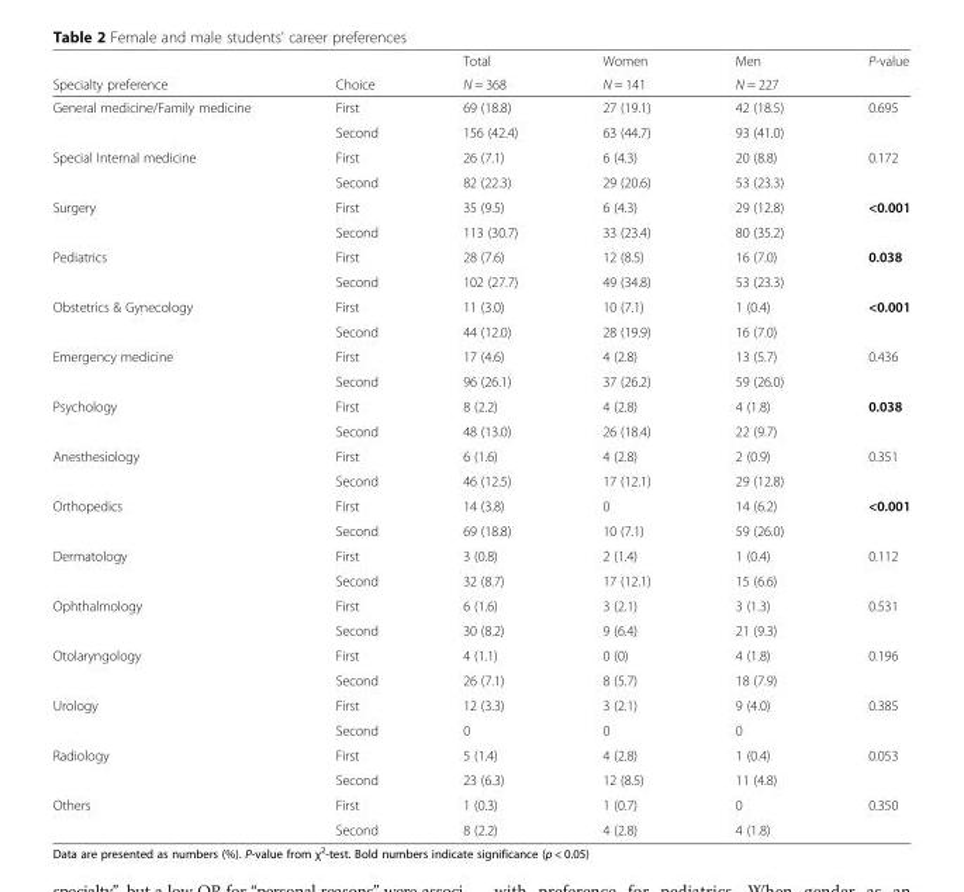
<table><thead><tr><td rowspan="2">Specialty preference</td><td rowspan="2">Choice</td><td rowspan="2">Total N = 368</td><td rowspan="2">Women N = 141</td><td rowspan="2">Men N = 227</td><td rowspan="2">P-value</td></tr><tr></tr></thead><tbody><tr><td rowspan="2">General medicine/Family medicine</td><td>First</td><td>69 (18.8)</td><td>27 (19.1)</td><td>42 (18.5)</td><td rowspan="2">0.695</td></tr><tr><td>Second</td><td>156 (42.4)</td><td>63 (44.7)</td><td>93 (41.0)</td></tr><tr><td rowspan="2">Special Internal medicine</td><td>First</td><td>26 (7.1)</td><td>6 (4.3)</td><td>20 (8.8)</td><td rowspan="2">0.172</td></tr><tr><td>Second</td><td>82 (22.3)</td><td>29 (20.6)</td><td>53 (23.3)</td></tr><tr><td rowspan="2">Surgery</td><td>First</td><td>35 (9.5)</td><td>6 (4.3)</td><td>29 (12.8)</td><td rowspan="2">&lt;0.001</td></tr><tr><td>Second</td><td>113 (30.7)</td><td>33 (23.4)</td><td>80 (35.2)</td></tr><tr><td rowspan="2">Pediatrics</td><td>First</td><td>28 (7.6)</td><td>12 (8.5)</td><td>16 (7.0)</td><td rowspan="2">0.038</td></tr><tr><td>Second</td><td>102 (27.7)</td><td>49 (34.8)</td><td>53 (23.3)</td></tr><tr><td rowspan="2">Obstetrics &amp; Gynecology</td><td>First</td><td>11 (3.0)</td><td>10 (7.1)</td><td>1 (0.4)</td><td rowspan="2">&lt;0.001</td></tr><tr><td>Second</td><td>44 (12.0)</td><td>28 (19.9)</td><td>16 (7.0)</td></tr><tr><td rowspan="2">Emergency medicine</td><td>First</td><td>17 (4.6)</td><td>4 (2.8)</td><td>13 (5.7)</td><td rowspan="2">0.436</td></tr><tr><td>Second</td><td>96 (26.1)</td><td>37 (26.2)</td><td>59 (26.0)</td></tr><tr><td rowspan="2">Psychology</td><td>First</td><td>8 (2.2)</td><td>4 (2.8)</td><td>4 (1.8)</td><td rowspan="2">0.038</td></tr><tr><td>Second</td><td>48 (13.0)</td><td>26 (18.4)</td><td>22 (9.7)</td></tr><tr><td rowspan="2">Anesthesiology</td><td>First</td><td>6 (1.6)</td><td>4 (2.8)</td><td>2 (0.9)</td><td rowspan="2">0.351</td></tr><tr><td>Second</td><td>46 (12.5)</td><td>17 (12.1)</td><td>29 (12.8)</td></tr><tr><td rowspan="2">Orthopedics</td><td>First</td><td>14 (3.8)</td><td>0</td><td>14 (6.2)</td><td rowspan="2">&lt;0.001</td></tr><tr><td>Second</td><td>69 (18.8)</td><td>10 (7.1)</td><td>59 (26.0)</td></tr><tr><td rowspan="2">Dermatology</td><td>First</td><td>3 (0.8)</td><td>2 (1.4)</td><td>1 (0.4)</td><td rowspan="2">0.112</td></tr><tr><td>Second</td><td>32 (8.7)</td><td>17 (12.1)</td><td>15 (6.6)</td></tr><tr><td rowspan="2">Ophthalmology</td><td>First</td><td>6 (1.6)</td><td>3 (2.1)</td><td>3 (1.3)</td><td rowspan="2">0.531</td></tr><tr><td>Second</td><td>30 (8.2)</td><td>9 (6.4)</td><td>21 (9.3)</td></tr><tr><td rowspan="2">Otolaryngology</td><td>First</td><td>4 (1.1)</td><td>0 (0)</td><td>4 (1.8)</td><td rowspan="2">0.196</td></tr><tr><td>Second</td><td>26 (7.1)</td><td>8 (5.7)</td><td>18 (7.9)</td></tr><tr><td rowspan="2">Urology</td><td>First</td><td>12 (3.3)</td><td>3 (2.1)</td><td>9 (4.0)</td><td rowspan="2">0.385</td></tr><tr><td>Second</td><td>0</td><td>0</td><td>0</td></tr><tr><td rowspan="2">Radiology</td><td>First</td><td>5 (1.4)</td><td>4 (2.8)</td><td>1 (0.4)</td><td rowspan="2">0.053</td></tr><tr><td>Second</td><td>23 (6.3)</td><td>12 (8.5)</td><td>11 (4.8)</td></tr><tr><td rowspan="2">Others</td><td>First</td><td>1 (0.3)</td><td>1 (0.7)</td><td>0</td><td rowspan="2">0.350</td></tr><tr><td>Second</td><td>8 (2.2)</td><td>4 (2.8)</td><td>4 (1.8)</td></tr></tbody></table>